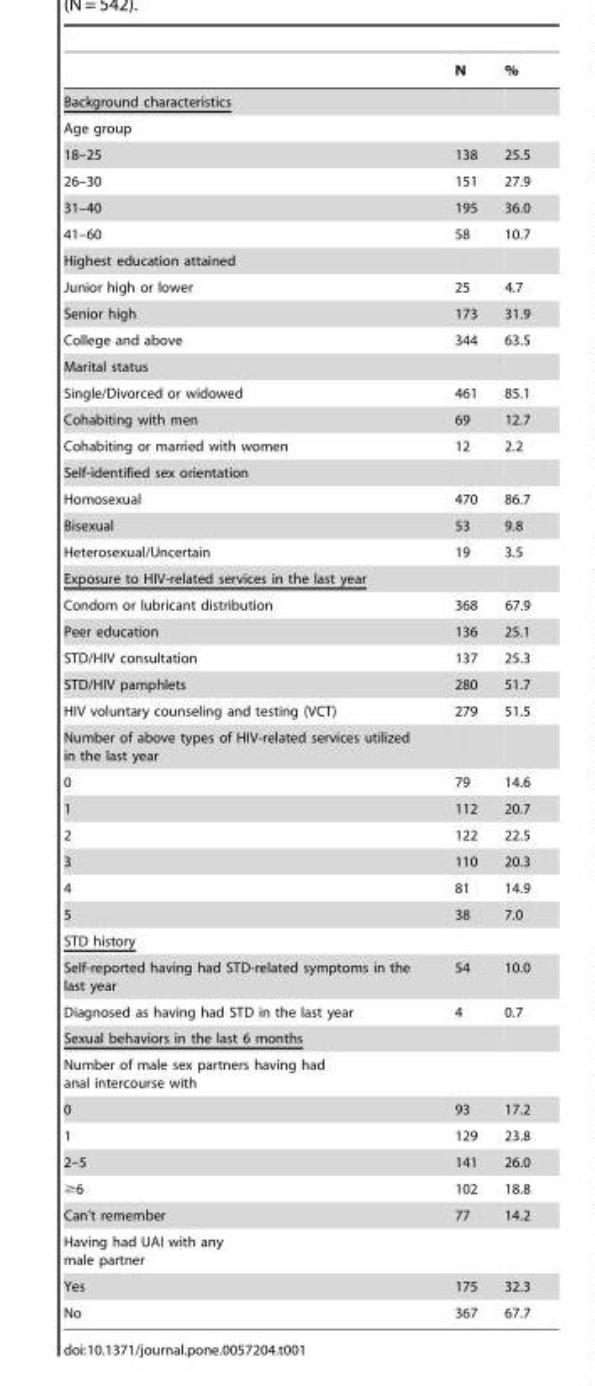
<table><thead><tr><td></td><td>N</td><td>%</td></tr></thead><tbody><tr><td colspan="3">Background characteristics</td></tr><tr><td colspan="3">Age group</td></tr><tr><td>18–25</td><td>138</td><td>25.5</td></tr><tr><td>26–30</td><td>151</td><td>27.9</td></tr><tr><td>31–40</td><td>195</td><td>36.0</td></tr><tr><td>41–60</td><td>58</td><td>10.7</td></tr><tr><td colspan="3">Highest education attained</td></tr><tr><td>Junior high or lower</td><td>25</td><td>4.7</td></tr><tr><td>Senior high</td><td>173</td><td>31.9</td></tr><tr><td>College and above</td><td>344</td><td>63.5</td></tr><tr><td colspan="3">Marital status</td></tr><tr><td>Single/Divorced or widowed</td><td>461</td><td>85.1</td></tr><tr><td>Cohabiting with men</td><td>69</td><td>12.7</td></tr><tr><td>Cohabiting or married with women</td><td>12</td><td>2.2</td></tr><tr><td colspan="3">Self-identified sex orientation</td></tr><tr><td>Homosexual</td><td>470</td><td>86.7</td></tr><tr><td>Bisexual</td><td>53</td><td>9.8</td></tr><tr><td>Heterosexual/Uncertain</td><td>19</td><td>3.5</td></tr><tr><td colspan="3">Exposure to HIV-related services in the last year</td></tr><tr><td>Condom or lubricant distribution</td><td>368</td><td>67.9</td></tr><tr><td>Peer education</td><td>136</td><td>25.1</td></tr><tr><td>STD/HIV consultation</td><td>137</td><td>25.3</td></tr><tr><td>STD/HIV pamphlets</td><td>280</td><td>51.7</td></tr><tr><td>HIV voluntary counseling and testing (VCT)</td><td>279</td><td>51.5</td></tr><tr><td colspan="3">Number of above types of HIV-related services utilized in the last year</td></tr><tr><td>0</td><td>79</td><td>14.6</td></tr><tr><td>1</td><td>112</td><td>20.7</td></tr><tr><td>2</td><td>122</td><td>22.5</td></tr><tr><td>3</td><td>110</td><td>20.3</td></tr><tr><td>4</td><td>81</td><td>14.9</td></tr><tr><td>5</td><td>38</td><td>7.0</td></tr><tr><td colspan="3">STD history</td></tr><tr><td>Self-reported having had STD-related symptoms in the last year</td><td>54</td><td>10.0</td></tr><tr><td>Diagnosed as having had STD in the last year</td><td>4</td><td>0.7</td></tr><tr><td colspan="3">Sexual behaviors in the last 6 months</td></tr><tr><td colspan="3">Number of male sex partners having had anal intercourse with</td></tr><tr><td>0</td><td>93</td><td>17.2</td></tr><tr><td>1</td><td>129</td><td>23.8</td></tr><tr><td>2–5</td><td>141</td><td>26.0</td></tr><tr><td>≥6</td><td>102</td><td>18.8</td></tr><tr><td>Can’t remember</td><td>77</td><td>14.2</td></tr><tr><td colspan="3">Having had UAI with any male partner</td></tr><tr><td>Yes</td><td>175</td><td>32.3</td></tr><tr><td>No</td><td>367</td><td>67.7</td></tr></tbody></table>